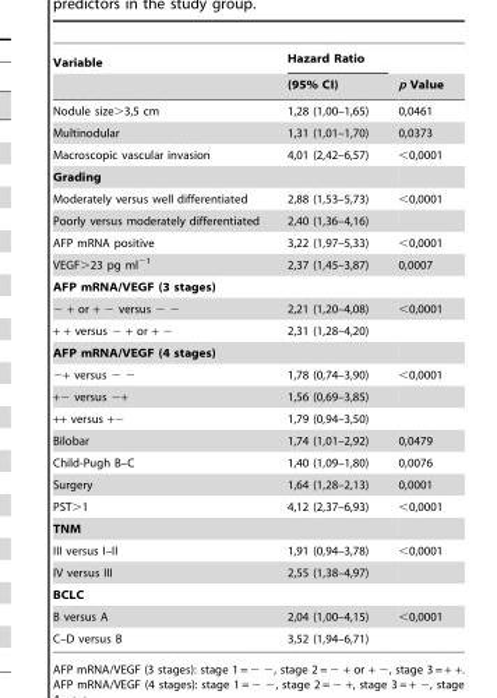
<table><thead><tr><td rowspan="2">Variable</td><td rowspan="2">Hazard Ratio (95% CI)</td><td rowspan="2">p Value</td></tr><tr></tr></thead><tbody><tr><td>Nodule size&gt;3,5 cm</td><td>1,28 (1,00–1,65)</td><td>0,0461</td></tr><tr><td>Multinodular</td><td>1,31 (1,01–1,70)</td><td>0,0373</td></tr><tr><td>Macroscopic vascular invasion</td><td>4,01 (2,42–6,57)</td><td>&lt;0,0001</td></tr><tr><td colspan="3">Grading</td></tr><tr><td>Moderately versus well differentiated</td><td>2,88 (1,53–5,73)</td><td>&lt;0,0001</td></tr><tr><td>Poorly versus moderately differentiated</td><td>2,40 (1,36–4,16)</td><td></td></tr><tr><td>AFP mRNA positive</td><td>3,22 (1,97–5,33)</td><td>&lt;0,0001</td></tr><tr><td>VEGF&gt;23 pg ml<sup>−1</sup></td><td>2,37 (1,45–3,87)</td><td>0,0007</td></tr><tr><td colspan="3">AFP mRNA/VEGF (3 stages)</td></tr><tr><td>− + or + − versus − −</td><td>2,21 (1,20–4,08)</td><td>&lt;0,0001</td></tr><tr><td>+ + versus − + or + −</td><td>2,31 (1,28–4,20)</td><td></td></tr><tr><td colspan="3">AFP mRNA/VEGF (4 stages)</td></tr><tr><td>−+ versus − −</td><td>1,78 (0,74–3,90)</td><td>&lt;0,0001</td></tr><tr><td>+− versus −+</td><td>1,56 (0,69–3,85)</td><td></td></tr><tr><td>++ versus +−</td><td>1,79 (0,94–3,50)</td><td></td></tr><tr><td>Bilobar</td><td>1,74 (1,01–2,92)</td><td>0,0479</td></tr><tr><td>Child-Pugh B–C</td><td>1,40 (1,09–1,80)</td><td>0,0076</td></tr><tr><td>Surgery</td><td>1,64 (1,28–2,13)</td><td>0,0001</td></tr><tr><td>PST&gt;1</td><td>4,12 (2,37–6,93)</td><td>&lt;0,0001</td></tr><tr><td colspan="3">TNM</td></tr><tr><td>III versus I–II</td><td>1,91 (0,94–3,78)</td><td>&lt;0,0001</td></tr><tr><td>IV versus III</td><td>2,55 (1,38–4,97)</td><td></td></tr><tr><td colspan="3">BCLC</td></tr><tr><td>B versus A</td><td>2,04 (1,00–4,15)</td><td>&lt;0,0001</td></tr><tr><td>C–D versus B</td><td>3,52 (1,94–6,71)</td><td></td></tr></tbody></table>